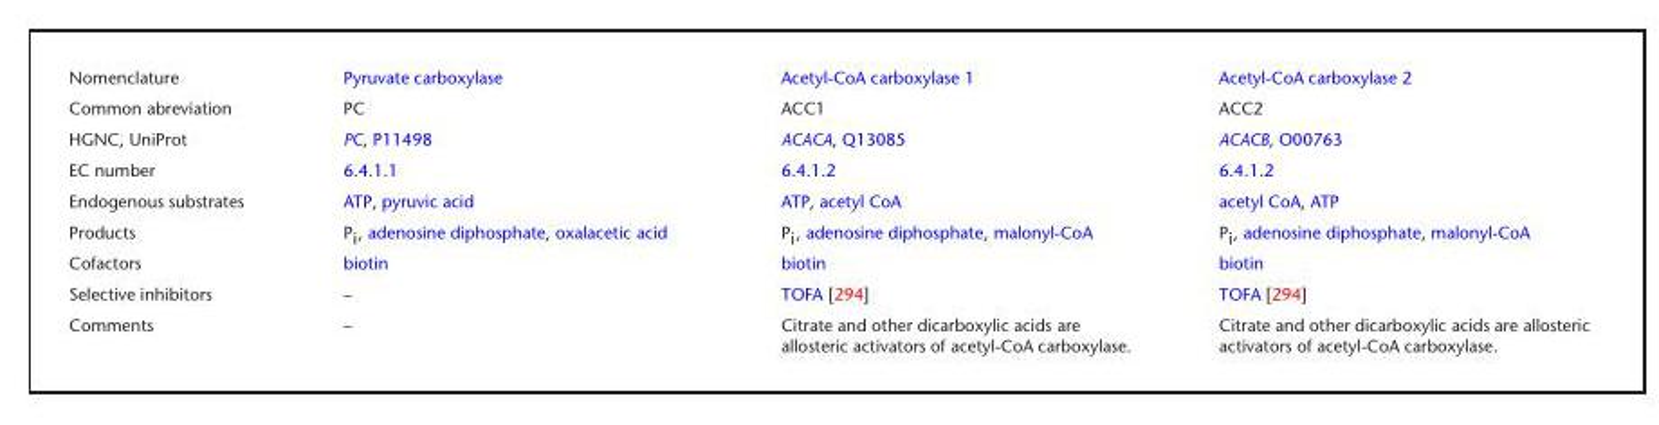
<table><tbody><tr><td>Nomenclature</td><td>Pyruvate carboxylase</td><td>Acetyl-CoA carboxylase 1</td><td>Acetyl-CoA carboxylase 2</td></tr><tr><td>Common abreviation</td><td>PC</td><td>ACC1</td><td>ACC2</td></tr><tr><td>HGNC, UniProt</td><td>PC, P11498</td><td>ACACA, Q13085</td><td>ACACB, O00763</td></tr><tr><td>EC number</td><td>6.4.1.1</td><td>6.4.1.2</td><td>6.4.1.2</td></tr><tr><td>Endogenous substrates</td><td>ATP, pyruvic acid</td><td>ATP, acetyl CoA</td><td>acetyl CoA, ATP</td></tr><tr><td>Products</td><td>P<sub>i</sub>, adenosine diphosphate, oxalacetic acid</td><td>P<sub>i</sub>, adenosine diphosphate, malonyl-CoA</td><td>P<sub>i</sub>, adenosine diphosphate, malonyl-CoA</td></tr><tr><td>Cofactors</td><td>biotin</td><td>biotin</td><td>biotin</td></tr><tr><td>Selective inhibitors</td><td>–</td><td>TOFA [294]</td><td>TOFA [294]</td></tr><tr><td>Comments</td><td>–</td><td>Citrate and other dicarboxylic acids are allosteric activators of acetyl-CoA carboxylase.</td><td>Citrate and other dicarboxylic acids are allosteric activators of acetyl-CoA carboxylase.</td></tr></tbody></table>